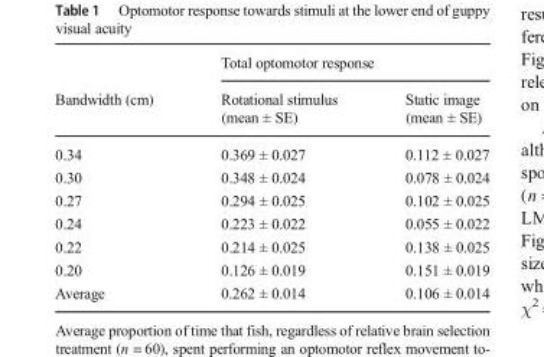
<table><thead><tr><td rowspan="2">Bandwidth (cm)</td><td colspan="2">Total optomotor response</td></tr><tr><td>Rotational stimulus (mean ± SE)</td><td>Static image (mean ± SE)</td></tr></thead><tbody><tr><td>0.34</td><td>0.369 ± 0.027</td><td>0.112 ± 0.027</td></tr><tr><td>0.30</td><td>0.348 ± 0.024</td><td>0.078 ± 0.024</td></tr><tr><td>0.27</td><td>0.294 ± 0.025</td><td>0.102 ± 0.025</td></tr><tr><td>0.24</td><td>0.223 ± 0.022</td><td>0.055 ± 0.022</td></tr><tr><td>0.22</td><td>0.214 ± 0.025</td><td>0.138 ± 0.025</td></tr><tr><td>0.20</td><td>0.126 ± 0.019</td><td>0.151 ± 0.019</td></tr><tr><td>Average</td><td>0.262 ± 0.014</td><td>0.106 ± 0.014</td></tr></tbody></table>